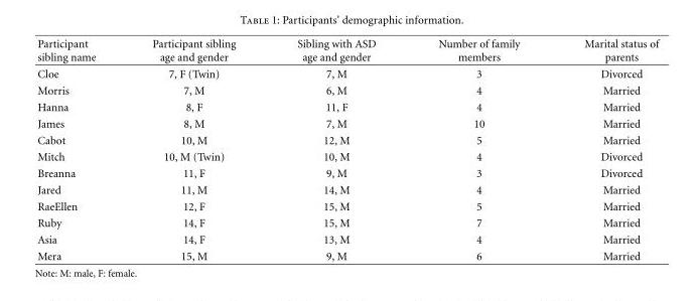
<table><thead><tr><td>Participant sibling name</td><td>Participant sibling age and gender</td><td>Sibling with ASD age and gender</td><td>Number of family members</td><td>Marital status of parents</td></tr></thead><tbody><tr><td>Cloe</td><td>7, F (Twin)</td><td>7, M</td><td>3</td><td>Divorced</td></tr><tr><td>Morris</td><td>7, M</td><td>6, M</td><td>4</td><td>Married</td></tr><tr><td>Hanna</td><td>8, F</td><td>11, F</td><td>4</td><td>Married</td></tr><tr><td>James</td><td>8, M</td><td>7, M</td><td>10</td><td>Married</td></tr><tr><td>Cabot</td><td>10, M</td><td>12, M</td><td>5</td><td>Married</td></tr><tr><td>Mitch</td><td>10, M (Twin)</td><td>10, M</td><td>4</td><td>Divorced</td></tr><tr><td>Breanna</td><td>11, F</td><td>9, M</td><td>3</td><td>Divorced</td></tr><tr><td>Jared</td><td>11, M</td><td>14, M</td><td>4</td><td>Married</td></tr><tr><td>RaeEllen</td><td>12, F</td><td>15, M</td><td>5</td><td>Married</td></tr><tr><td>Ruby</td><td>14, F</td><td>15, M</td><td>7</td><td>Married</td></tr><tr><td>Asia</td><td>14, F</td><td>13, M</td><td>4</td><td>Married</td></tr><tr><td>Mera</td><td>15, M</td><td>9, M</td><td>6</td><td>Married</td></tr></tbody></table>